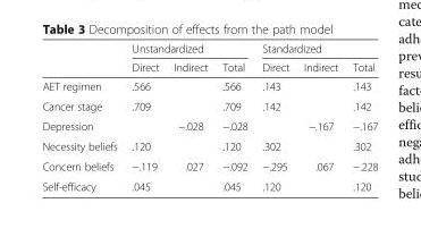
<table><thead><tr><td rowspan="2"></td><td colspan="3">Unstandardized</td><td colspan="3">Standardized</td></tr><tr><td>Direct</td><td>Indirect</td><td>Total</td><td>Direct</td><td>Indirect</td><td>Total</td></tr></thead><tbody><tr><td>AET regimen</td><td>.566</td><td></td><td>.566</td><td>.143</td><td></td><td>.143</td></tr><tr><td>Cancer stage</td><td>.709</td><td></td><td>.709</td><td>.142</td><td></td><td>.142</td></tr><tr><td>Depression</td><td></td><td>−.028</td><td>−.028</td><td></td><td>−.167</td><td>−.167</td></tr><tr><td>Necessity beliefs</td><td>.120</td><td></td><td>.120</td><td>.302</td><td></td><td>.302</td></tr><tr><td>Concern beliefs</td><td>−.119</td><td>.027</td><td>−.092</td><td>−.295</td><td>.067</td><td>−.228</td></tr><tr><td>Self-efficacy</td><td>.045</td><td></td><td>.045</td><td>.120</td><td></td><td>.120</td></tr></tbody></table>